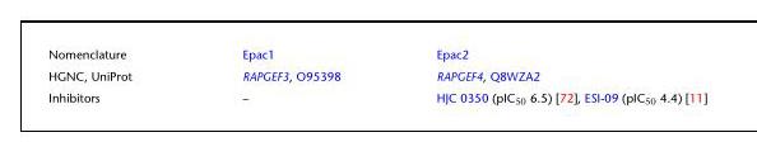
<table><tbody><tr><td>Nomenclature</td><td>Epac1</td><td>Epac2</td></tr><tr><td>HGNC, UniProt</td><td>RAPGEF3, O95398</td><td>RAPGEF4, Q8WZA2</td></tr><tr><td>Inhibitors</td><td>–</td><td>HJC 0350 (pIC<sub>50</sub> 6.5) [72], ESI-09 (pIC<sub>50</sub> 4.4) [11]</td></tr></tbody></table>